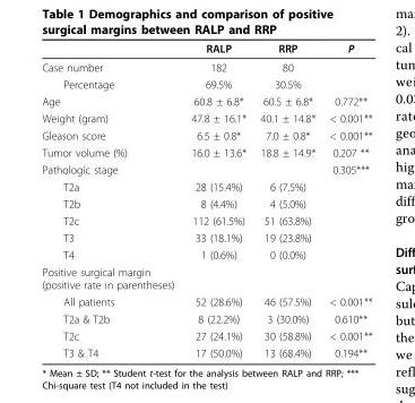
<table><thead><tr><td></td><td>RALP</td><td>RRP</td><td>P</td></tr></thead><tbody><tr><td>Case number</td><td>182</td><td>80</td><td></td></tr><tr><td>Percentage</td><td>69.5%</td><td>30.5%</td><td></td></tr><tr><td>Age</td><td>60.8 ± 6.8*</td><td>60.5 ± 6.8*</td><td>0.772**</td></tr><tr><td>Weight (gram)</td><td>47.8 ± 16.1*</td><td>40.1 ± 14.8*</td><td>&lt; 0.001**</td></tr><tr><td>Gleason score</td><td>6.5 ± 0.8*</td><td>7.0 ± 0.8*</td><td>&lt; 0.001**</td></tr><tr><td>Tumor volume (%)</td><td>16.0 ± 13.6*</td><td>18.8 ± 14.9*</td><td>0.207 **</td></tr><tr><td>Pathologic stage</td><td></td><td></td><td>0.305***</td></tr><tr><td>T2a</td><td>28 (15.4%)</td><td>6 (7.5%)</td><td></td></tr><tr><td>T2b</td><td>8 (4.4%)</td><td>4 (5.0%)</td><td></td></tr><tr><td>T2c</td><td>112 (61.5%)</td><td>51 (63.8%)</td><td></td></tr><tr><td>T3</td><td>33 (18.1%)</td><td>19 (23.8%)</td><td></td></tr><tr><td>T4</td><td>1 (0.6%)</td><td>0 (0.0%)</td><td></td></tr><tr><td colspan="4">Positive surgical margin (positive rate in parentheses)</td></tr><tr><td>All patients</td><td>52 (28.6%)</td><td>46 (57.5%)</td><td>&lt; 0.001**</td></tr><tr><td>T2a &amp; T2b</td><td>8 (22.2%)</td><td>3 (30.0%)</td><td>0.610**</td></tr><tr><td>T2c</td><td>27 (24.1%)</td><td>30 (58.8%)</td><td>&lt; 0.001**</td></tr><tr><td>T3 &amp; T4</td><td>17 (50.0%)</td><td>13 (68.4%)</td><td>0.194**</td></tr></tbody></table>